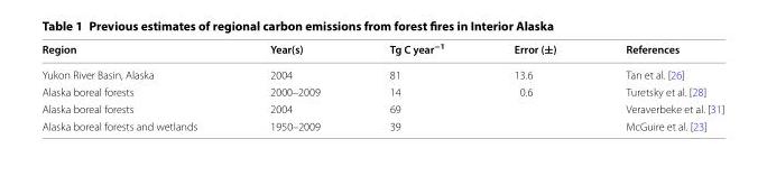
<table><thead><tr><td>Region</td><td>Year(s)</td><td>Tg C year<sup>−1</sup></td><td>Error (±)</td><td>References</td></tr></thead><tbody><tr><td>Yukon River Basin, Alaska</td><td>2004</td><td>81</td><td>13.6</td><td>Tan et al. [26]</td></tr><tr><td>Alaska boreal forests</td><td>2000–2009</td><td>14</td><td>0.6</td><td>Turetsky et al. [28]</td></tr><tr><td>Alaska boreal forests</td><td>2004</td><td>69</td><td></td><td>Veraverbeke et al. [31]</td></tr><tr><td>Alaska boreal forests and wetlands</td><td>1950–2009</td><td>39</td><td></td><td>McGuire et al. [23]</td></tr></tbody></table>